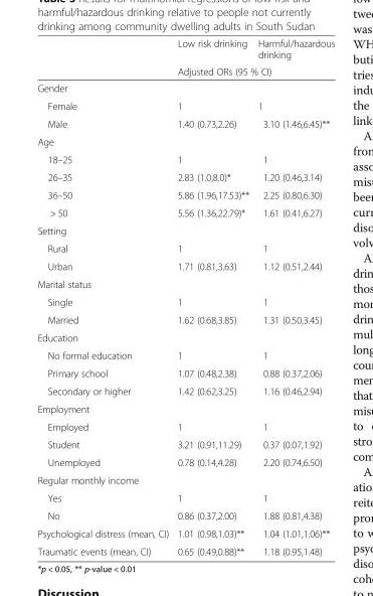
<table><thead><tr><td rowspan="2"></td><td>Low risk drinking</td><td>Harmful/hazardous drinking</td></tr><tr><td colspan="2">Adjusted ORs (95 % CI)</td></tr></thead><tbody><tr><td colspan="3">Gender</td></tr><tr><td>Female</td><td>1</td><td>1</td></tr><tr><td>Male</td><td>1.40 (0.73,2.26)</td><td>3.10 (1.46,6.45)**</td></tr><tr><td colspan="3">Age</td></tr><tr><td>18–25</td><td>1</td><td>1</td></tr><tr><td>26–35</td><td>2.83 (1.0,8.0)*</td><td>1.20 (0.46,3.14)</td></tr><tr><td>36–50</td><td>5.86 (1.96,17.53)**</td><td>2.25 (0.80,6.30)</td></tr><tr><td>&gt; 50</td><td>5.56 (1.36,22.79)*</td><td>1.61 (0.41,6.27)</td></tr><tr><td colspan="3">Setting</td></tr><tr><td>Rural</td><td>1</td><td>1</td></tr><tr><td>Urban</td><td>1.71 (0.81,3.63)</td><td>1.12 (0.51,2.44)</td></tr><tr><td colspan="3">Marital status</td></tr><tr><td>Single</td><td>1</td><td>1</td></tr><tr><td>Married</td><td>1.62 (0.68,3.85)</td><td>1.31 (0.50,3.45)</td></tr><tr><td colspan="3">Education</td></tr><tr><td>No formal education</td><td>1</td><td>1</td></tr><tr><td>Primary school</td><td>1.07 (0.48,2.38)</td><td>0.88 (0.37,2.06)</td></tr><tr><td>Secondary or higher</td><td>1.42 (0.62,3.25)</td><td>1.16 (0.46,2.94)</td></tr><tr><td colspan="3">Employment</td></tr><tr><td>Employed</td><td>1</td><td>1</td></tr><tr><td>Student</td><td>3.21 (0.91,11.29)</td><td>0.37 (0.07,1.92)</td></tr><tr><td>Unemployed</td><td>0.78 (0.14,4.28)</td><td>2.20 (0.74,6.50)</td></tr><tr><td colspan="3">Regular monthly income</td></tr><tr><td>Yes</td><td>1</td><td>1</td></tr><tr><td>No</td><td>0.86 (0.37,2.00)</td><td>1.88 (0.81,4.38)</td></tr><tr><td>Psychological distress (mean, CI)</td><td>1.01 (0.98,1.03)**</td><td>1.04 (1.01,1.06)**</td></tr><tr><td>Traumatic events (mean, CI)</td><td>0.65 (0.49,0.88)**</td><td>1.18 (0.95,1.48)</td></tr></tbody></table>